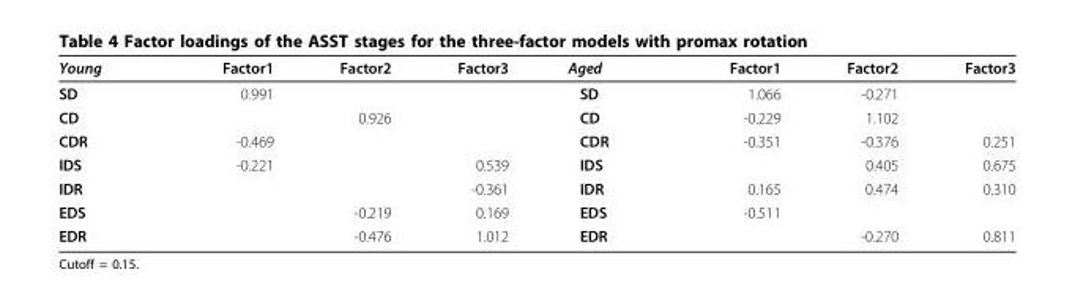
<table><thead><tr><td>Young</td><td>Factor1</td><td>Factor2</td><td>Factor3</td><td>Aged</td><td>Factor1</td><td>Factor2</td><td>Factor3</td></tr></thead><tbody><tr><td>SD</td><td>0.991</td><td></td><td></td><td>SD</td><td>1.066</td><td>-0.271</td><td></td></tr><tr><td>CD</td><td></td><td>0.926</td><td></td><td>CD</td><td>-0.229</td><td>1.102</td><td></td></tr><tr><td>CDR</td><td>-0.469</td><td></td><td></td><td>CDR</td><td>-0.351</td><td>-0.376</td><td>0.251</td></tr><tr><td>IDS</td><td>-0.221</td><td></td><td>0.539</td><td>IDS</td><td></td><td>0.405</td><td>0.675</td></tr><tr><td>IDR</td><td></td><td></td><td>-0.361</td><td>IDR</td><td>0.165</td><td>0.474</td><td>0.310</td></tr><tr><td>EDS</td><td></td><td>-0.219</td><td>0.169</td><td>EDS</td><td>-0.511</td><td></td><td></td></tr><tr><td>EDR</td><td></td><td>-0.476</td><td>1.012</td><td>EDR</td><td></td><td>-0.270</td><td>0.811</td></tr></tbody></table>